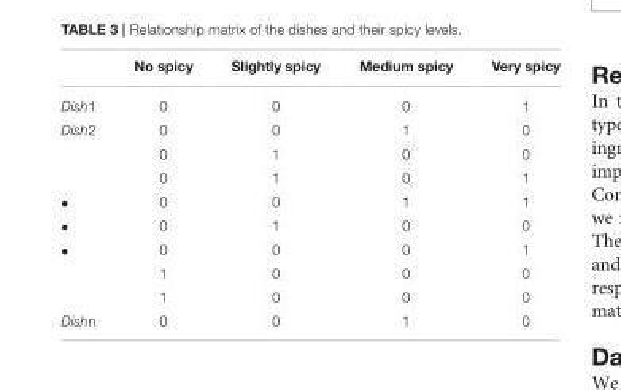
<table><thead><tr><td></td><td>No spicy</td><td>Slightly spicy</td><td>Medium spicy</td><td>Very spicy</td></tr></thead><tbody><tr><td>Dish1</td><td>0</td><td>0</td><td>0</td><td>1</td></tr><tr><td rowspan="3">Dish2</td><td>0</td><td>0</td><td>1</td><td>0</td></tr><tr><td>0</td><td>1</td><td>0</td><td>0</td></tr><tr><td>0</td><td>1</td><td>0</td><td>1</td></tr><tr><td>•</td><td>0</td><td>0</td><td>1</td><td>1</td></tr><tr><td>•</td><td>0</td><td>1</td><td>0</td><td>0</td></tr><tr><td rowspan="3">•</td><td>0</td><td>0</td><td>0</td><td>1</td></tr><tr><td>1</td><td>0</td><td>0</td><td>0</td></tr><tr><td>1</td><td>0</td><td>0</td><td>0</td></tr><tr><td>Dishn</td><td>0</td><td>0</td><td>1</td><td>0</td></tr></tbody></table>